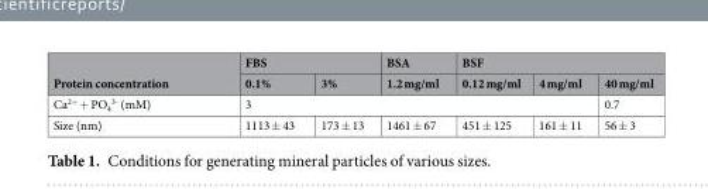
<table><thead><tr><td rowspan="2">Protein concentration</td><td colspan="2">FBS</td><td rowspan="2">BSA 1.2 mg/ml</td><td colspan="3">BSF</td></tr><tr><td>0.1%</td><td>3%</td><td>0.12 mg/ml</td><td>4 mg/ml</td><td>40 mg/ml</td></tr></thead><tbody><tr><td>Ca<sup>2+</sup> + PO<sub>4</sub> <sup>3-</sup> (mM)</td><td colspan="5">3</td><td>0.7</td></tr><tr><td>Size (nm)</td><td>1113 ± 43</td><td>173 ± 13</td><td>1461 ± 67</td><td>451 ± 125</td><td>161 ± 11</td><td>56 ± 3</td></tr></tbody></table>